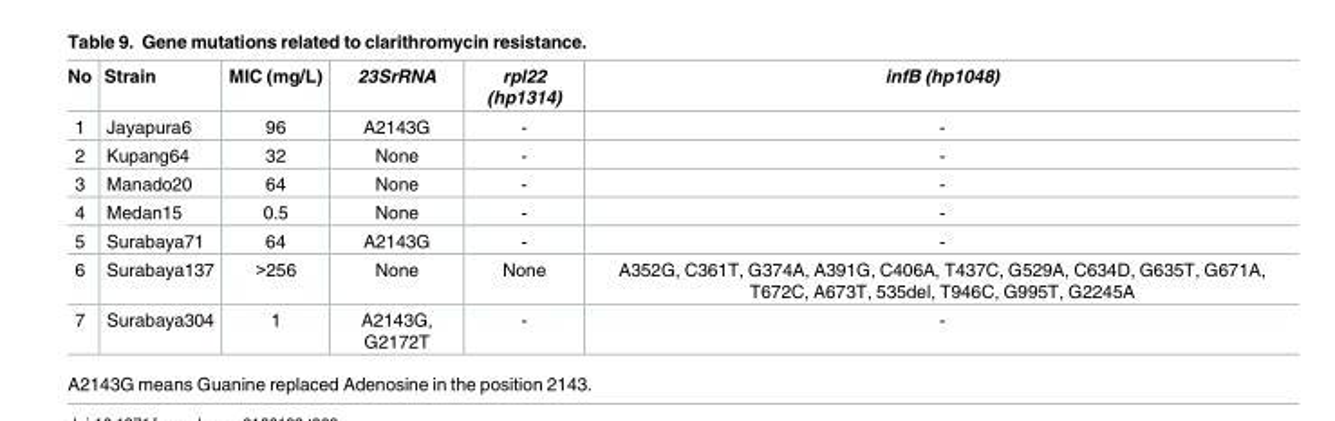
<table><thead><tr><td>No</td><td>Strain</td><td>MIC (mg/L)</td><td>23SrRNA</td><td>rpl22 (hp1314)</td><td>infB (hp1048)</td></tr></thead><tbody><tr><td>1</td><td>Jayapura6</td><td>96</td><td>A2143G</td><td>-</td><td>-</td></tr><tr><td>2</td><td>Kupang64</td><td>32</td><td>None</td><td>-</td><td>-</td></tr><tr><td>3</td><td>Manado20</td><td>64</td><td>None</td><td>-</td><td>-</td></tr><tr><td>4</td><td>Medan15</td><td>0.5</td><td>None</td><td>-</td><td>-</td></tr><tr><td>5</td><td>Surabaya71</td><td>64</td><td>A2143G</td><td>-</td><td>-</td></tr><tr><td>6</td><td>Surabaya137</td><td>&gt;256</td><td>None</td><td>None</td><td>A352G, C361T, G374A, A391G, C406A, T437C, G529A, C634D, G635T, G671A, T672C, A673T, 535del, T946C, G995T, G2245A</td></tr><tr><td>7</td><td>Surabaya304</td><td>1</td><td>A2143G, G2172T</td><td>-</td><td>-</td></tr></tbody></table>